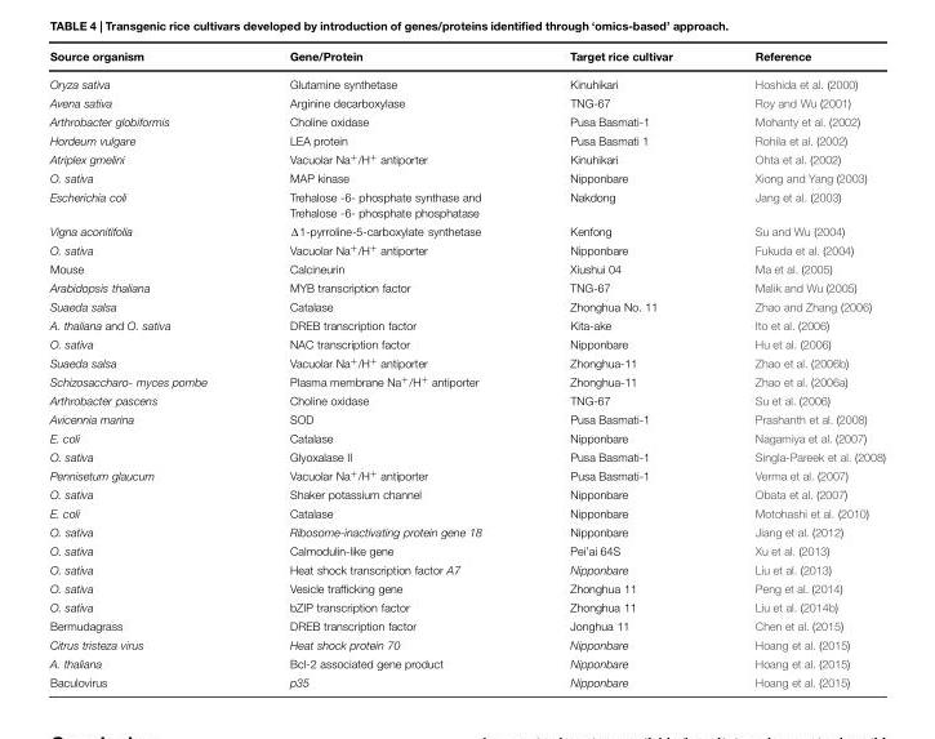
<table><thead><tr><td>Source organism</td><td>Gene/Protein</td><td>Target rice cultivar</td><td>Reference</td></tr></thead><tbody><tr><td>Oryza sativa</td><td>Glutamine synthetase</td><td>Kinuhikari</td><td>Hoshida et al. (2000)</td></tr><tr><td>Avena sativa</td><td>Arginine decarboxylase</td><td>TNG-67</td><td>Roy and Wu (2001)</td></tr><tr><td>Arthrobacter globiformis</td><td>Choline oxidase</td><td>Pusa Basmati-1</td><td>Mohanty et al. (2002)</td></tr><tr><td>Hordeum vulgare</td><td>LEA protein</td><td>Pusa Basmati 1</td><td>Rohila et al. (2002)</td></tr><tr><td>Atriplex gmelini</td><td>Vacuolar Na<sup>+</sup>/H<sup>+</sup> antiporter</td><td>Kinuhikari</td><td>Ohta et al. (2002)</td></tr><tr><td>O. sativa</td><td>MAP kinase</td><td>Nipponbare</td><td>Xiong and Yang (2003)</td></tr><tr><td>Escherichia coli</td><td>Trehalose -6- phosphate synthase and Trehalose -6- phosphate phosphatase</td><td>Nakdong</td><td>Jang et al. (2003)</td></tr><tr><td>Vigna aconitifolia</td><td>Δ1-pyrroline-5-carboxylate synthetase</td><td>Kenfong</td><td>Su and Wu (2004)</td></tr><tr><td>O. sativa</td><td>Vacuolar Na<sup>+</sup>/H<sup>+</sup> antiporter</td><td>Nipponbare</td><td>Fukuda et al. (2004)</td></tr><tr><td>Mouse</td><td>Calcineurin</td><td>Xiushui 04</td><td>Ma et al. (2005)</td></tr><tr><td>Arabidopsis thaliana</td><td>MYB transcription factor</td><td>TNG-67</td><td>Malik and Wu (2005)</td></tr><tr><td>Suaeda salsa</td><td>Catalase</td><td>Zhonghua No. 11</td><td>Zhao and Zhang (2006)</td></tr><tr><td>A. thaliana and O. sativa</td><td>DREB transcription factor</td><td>Kita-ake</td><td>Ito et al. (2006)</td></tr><tr><td>O. sativa</td><td>NAC transcription factor</td><td>Nipponbare</td><td>Hu et al. (2006)</td></tr><tr><td>Suaeda salsa</td><td>Vacuolar Na<sup>+</sup>/H<sup>+</sup> antiporter</td><td>Zhonghua-11</td><td>Zhao et al. (2006b)</td></tr><tr><td>Schizosaccharo- myces pombe</td><td>Plasma membrane Na<sup>+</sup>/H<sup>+</sup> antiporter</td><td>Zhonghua-11</td><td>Zhao et al. (2006a)</td></tr><tr><td>Arthrobacter pascens</td><td>Choline oxidase</td><td>TNG-67</td><td>Su et al. (2006)</td></tr><tr><td>Avicennia marina</td><td>SOD</td><td>Pusa Basmati-1</td><td>Prashanth et al. (2008)</td></tr><tr><td>E. coli</td><td>Catalase</td><td>Nipponbare</td><td>Nagamiya et al. (2007)</td></tr><tr><td>O. sativa</td><td>Glyoxalase II</td><td>Pusa Basmati-1</td><td>Singla-Pareek et al. (2008)</td></tr><tr><td>Pennisetum glaucum</td><td>Vacuolar Na<sup>+</sup>/H<sup>+</sup> antiporter</td><td>Pusa Basmati-1</td><td>Verma et al. (2007)</td></tr><tr><td>O. sativa</td><td>Shaker potassium channel</td><td>Nipponbare</td><td>Obata et al. (2007)</td></tr><tr><td>E. coli</td><td>Catalase</td><td>Nipponbare</td><td>Motohashi et al. (2010)</td></tr><tr><td>O. sativa</td><td>Ribosome-inactivating protein gene 18</td><td>Nipponbare</td><td>Jiang et al. (2012)</td></tr><tr><td>O. sativa</td><td>Calmodulin-like gene</td><td>Pei’ai 64S</td><td>Xu et al. (2013)</td></tr><tr><td>O. sativa</td><td>Heat shock transcription factor A7</td><td>Nipponbare</td><td>Liu et al. (2013)</td></tr><tr><td>O. sativa</td><td>Vesicle trafficking gene</td><td>Zhonghua 11</td><td>Peng et al. (2014)</td></tr><tr><td>O. sativa</td><td>bZIP transcription factor</td><td>Zhonghua 11</td><td>Liu et al. (2014b)</td></tr><tr><td>Bermudagrass</td><td>DREB transcription factor</td><td>Jonghua 11</td><td>Chen et al. (2015)</td></tr><tr><td>Citrus tristeza virus</td><td>Heat shock protein 70</td><td>Nipponbare</td><td>Hoang et al. (2015)</td></tr><tr><td>A. thaliana</td><td>Bcl-2 associated gene product</td><td>Nipponbare</td><td>Hoang et al. (2015)</td></tr><tr><td>Baculovirus</td><td>p35</td><td>Nipponbare</td><td>Hoang et al. (2015)</td></tr></tbody></table>